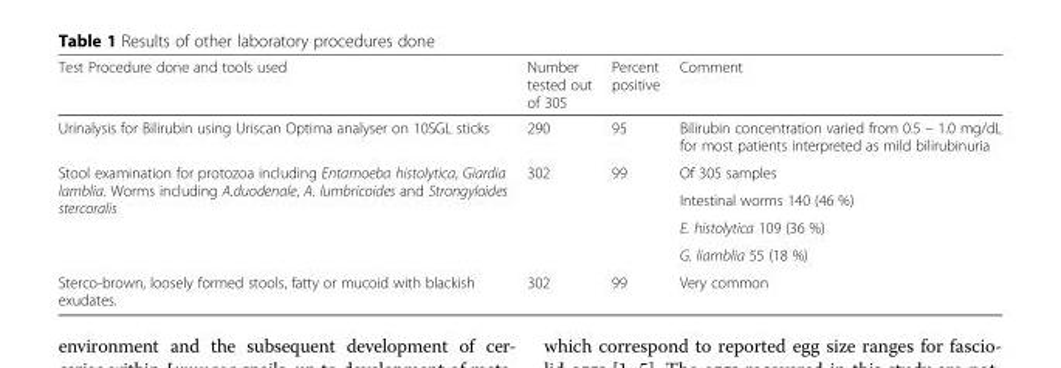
<table><thead><tr><td>Test Procedure done and tools used</td><td>Number tested out of 305</td><td>Percent positive</td><td>Comment</td></tr></thead><tbody><tr><td>Urinalysis for Bilirubin using Uriscan Optima analyser on 10SGL sticks</td><td>290</td><td>95</td><td>Bilirubin concentration varied from 0.5 – 1.0 mg/dL for most patients interpreted as mild bilirubinuria</td></tr><tr><td rowspan="4">Stool examination for protozoa including Entamoeba histolytica, Giardia lamblia. Worms including A.duodenale, A. lumbricoides and Strongyloides stercoralis</td><td rowspan="4">302</td><td rowspan="4">99</td><td>Of 305 samples</td></tr><tr><td>Intestinal worms 140 (46 %)</td></tr><tr><td>E. histolytica 109 (36 %)</td></tr><tr><td>G. liamblia 55 (18 %)</td></tr><tr><td>Sterco-brown, loosely formed stools, fatty or mucoid with blackish exudates.</td><td>302</td><td>99</td><td>Very common</td></tr></tbody></table>